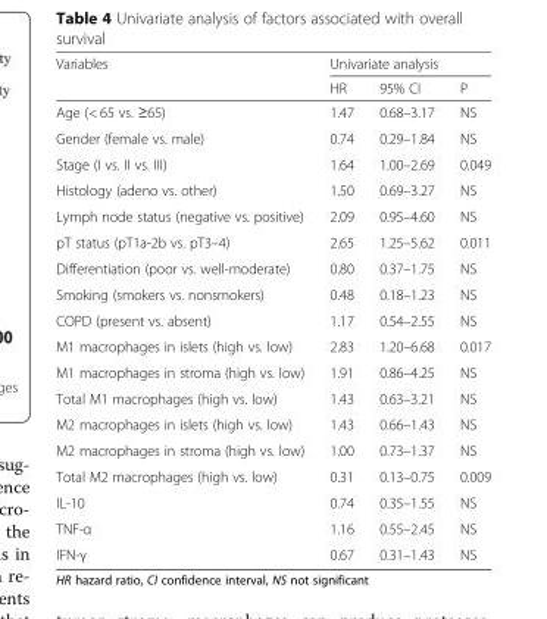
<table><thead><tr><td rowspan="2">Variables</td><td colspan="3">Univariate analysis</td></tr><tr><td>HR</td><td>95% CI</td><td>P</td></tr></thead><tbody><tr><td>Age (&lt; 65 vs. ≥65)</td><td>1.47</td><td>0.68–3.17</td><td>NS</td></tr><tr><td>Gender (female vs. male)</td><td>0.74</td><td>0.29–1.84</td><td>NS</td></tr><tr><td>Stage (I vs. II vs. III)</td><td>1.64</td><td>1.00–2.69</td><td>0.049</td></tr><tr><td>Histology (adeno vs. other)</td><td>1.50</td><td>0.69–3.27</td><td>NS</td></tr><tr><td>Lymph node status (negative vs. positive)</td><td>2.09</td><td>0.95–4.60</td><td>NS</td></tr><tr><td>pT status (pT1a-2b vs. pT3–4)</td><td>2.65</td><td>1.25–5.62</td><td>0.011</td></tr><tr><td>Differentiation (poor vs. well-moderate)</td><td>0.80</td><td>0.37–1.75</td><td>NS</td></tr><tr><td>Smoking (smokers vs. nonsmokers)</td><td>0.48</td><td>0.18–1.23</td><td>NS</td></tr><tr><td>COPD (present vs. absent)</td><td>1.17</td><td>0.54–2.55</td><td>NS</td></tr><tr><td>M1 macrophages in islets (high vs. low)</td><td>2.83</td><td>1.20–6.68</td><td>0.017</td></tr><tr><td>M1 macrophages in stroma (high vs. low)</td><td>1.91</td><td>0.86–4.25</td><td>NS</td></tr><tr><td>Total M1 macrophages (high vs. low)</td><td>1.43</td><td>0.63–3.21</td><td>NS</td></tr><tr><td>M2 macrophages in islets (high vs. low)</td><td>1.43</td><td>0.66–1.43</td><td>NS</td></tr><tr><td>M2 macrophages in stroma (high vs. low)</td><td>1.00</td><td>0.73–1.37</td><td>NS</td></tr><tr><td>Total M2 macrophages (high vs. low)</td><td>0.31</td><td>0.13–0.75</td><td>0.009</td></tr><tr><td>IL-10</td><td>0.74</td><td>0.35–1.55</td><td>NS</td></tr><tr><td>TNF-α</td><td>1.16</td><td>0.55–2.45</td><td>NS</td></tr><tr><td>IFN-γ</td><td>0.67</td><td>0.31–1.43</td><td>NS</td></tr></tbody></table>